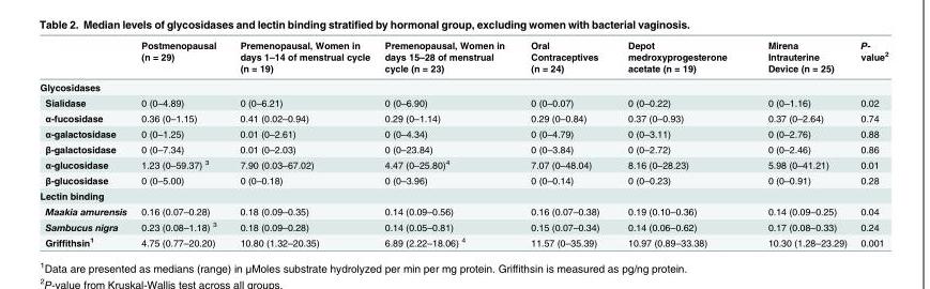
<table><thead><tr><td></td><td>Postmenopausal (n = 29)</td><td>Premenopausal, Women in days 1–14 of menstrual cycle (n = 19)</td><td>Premenopausal, Women in days 15–28 of menstrual cycle (n = 23)</td><td>Oral Contraceptives (n = 24)</td><td>Depot medroxyprogesterone acetate (n = 19)</td><td>Mirena Intrauterine Device (n = 25)</td><td>P- value<sup>2</sup></td></tr></thead><tbody><tr><td colspan="8">Glycosidases</td></tr><tr><td>Sialidase</td><td>0 (0–4.89)</td><td>0 (0–6.21)</td><td>0 (0–6.90)</td><td>0 (0–0.07)</td><td>0 (0–0.22)</td><td>0 (0–1.16)</td><td>0.02</td></tr><tr><td>α-fucosidase</td><td>0.36 (0–1.15)</td><td>0.41 (0.02–0.94)</td><td>0.29 (0–1.14)</td><td>0.29 (0–0.84)</td><td>0.37 (0–0.93)</td><td>0.37 (0–2.64)</td><td>0.74</td></tr><tr><td>α-galactosidase</td><td>0 (0–1.25)</td><td>0.01 (0–2.61)</td><td>0 (0–4.34)</td><td>0 (0–4.79)</td><td>0 (0–3.11)</td><td>0 (0–2.76)</td><td>0.88</td></tr><tr><td>β-galactosidase</td><td>0 (0–7.34)</td><td>0.01 (0–2.03)</td><td>0 (0–23.84)</td><td>0 (0–3.84)</td><td>0 (0–2.72)</td><td>0 (0–2.46)</td><td>0.86</td></tr><tr><td>α-glucosidase</td><td>1.23 (0–59.37) <sup>3</sup></td><td>7.90 (0.03–67.02)</td><td>4.47 (0–25.80)<sup>4</sup></td><td>7.07 (0–48.04)</td><td>8.16 (0–28.23)</td><td>5.98 (0–41.21)</td><td>0.01</td></tr><tr><td>β-glucosidase</td><td>0 (0–5.00)</td><td>0 (0–0.18)</td><td>0 (0–3.96)</td><td>0 (0–0.14)</td><td>0 (0–0.23)</td><td>0 (0–0.91)</td><td>0.28</td></tr><tr><td colspan="8">Lectin binding</td></tr><tr><td>Maakia amurensis</td><td>0.16 (0.07–0.28)</td><td>0.18 (0.09–0.35)</td><td>0.14 (0.09–0.56)</td><td>0.16 (0.07–0.38)</td><td>0.19 (0.10–0.36)</td><td>0.14 (0.09–0.25)</td><td>0.04</td></tr><tr><td>Sambucus nigra</td><td>0.23 (0.08–1.18) <sup>3</sup></td><td>0.18 (0.09–0.28)</td><td>0.14 (0.05–0.81)</td><td>0.15 (0.07–0.34)</td><td>0.14 (0.06–0.62)</td><td>0.17 (0.08–0.33)</td><td>0.24</td></tr><tr><td>Griffithsin<sup>1</sup></td><td>4.75 (0.77–20.20)</td><td>10.80 (1.32–20.35)</td><td>6.89 (2.22–18.06) <sup>4</sup></td><td>11.57 (0–35.39)</td><td>10.97 (0.89–33.38)</td><td>10.30 (1.28–23.29)</td><td>0.001</td></tr></tbody></table>